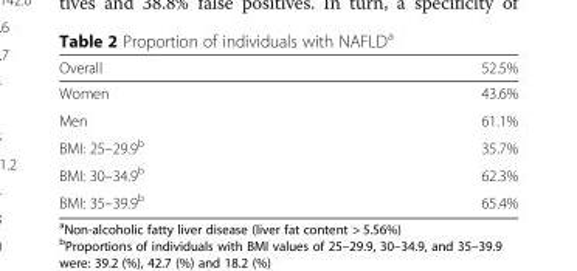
<table><thead><tr><td>Overall</td><td>52.5%</td></tr></thead><tbody><tr><td>Women</td><td>43.6%</td></tr><tr><td>Men</td><td>61.1%</td></tr><tr><td>BMI: 25–29.9<sup>b</sup></td><td>35.7%</td></tr><tr><td>BMI: 30–34.9<sup>b</sup></td><td>62.3%</td></tr><tr><td>BMI: 35–39.9<sup>b</sup></td><td>65.4%</td></tr></tbody></table>